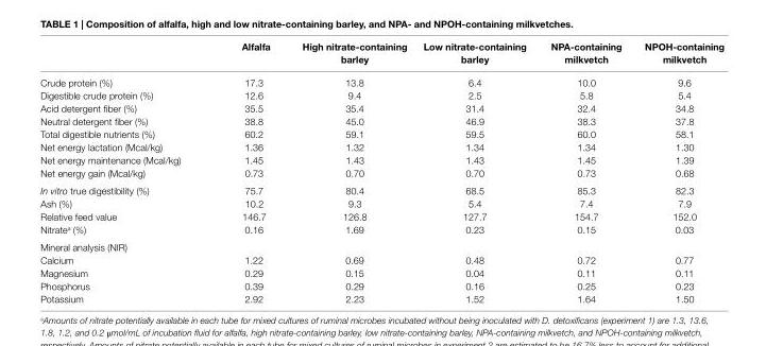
<table><thead><tr><td></td><td>alfalfa</td><td>high nitrate-containing barley</td><td>low nitrate-containing barley</td><td>nPa-containing milkvetch</td><td>nPOh-containing milkvetch</td></tr></thead><tbody><tr><td>Crude protein (%)</td><td>17.3</td><td>13.8</td><td>6.4</td><td>10.0</td><td>9.6</td></tr><tr><td>Digestible crude protein (%)</td><td>12.6</td><td>9.4</td><td>2.5</td><td>5.8</td><td>5.4</td></tr><tr><td>Acid detergent fiber (%)</td><td>35.5</td><td>35.4</td><td>31.4</td><td>32.4</td><td>34.8</td></tr><tr><td>Neutral detergent fiber (%)</td><td>38.8</td><td>45.0</td><td>46.9</td><td>38.3</td><td>37.8</td></tr><tr><td>Total digestible nutrients (%)</td><td>60.2</td><td>59.1</td><td>59.5</td><td>60.0</td><td>58.1</td></tr><tr><td>Net energy lactation (Mcal/kg)</td><td>1.36</td><td>1.32</td><td>1.34</td><td>1.34</td><td>1.30</td></tr><tr><td>Net energy maintenance (Mcal/kg)</td><td>1.45</td><td>1.43</td><td>1.43</td><td>1.45</td><td>1.39</td></tr><tr><td>Net energy gain (Mcal/kg)</td><td>0.73</td><td>0.70</td><td>0.70</td><td>0.73</td><td>0.68</td></tr><tr><td>In vitro true digestibility (%)</td><td>75.7</td><td>80.4</td><td>68.5</td><td>85.3</td><td>82.3</td></tr><tr><td>Ash (%)</td><td>10.2</td><td>9.3</td><td>5.4</td><td>7.4</td><td>7.9</td></tr><tr><td>Relative feed value</td><td>146.7</td><td>126.8</td><td>127.7</td><td>154.7</td><td>152.0</td></tr><tr><td>Nitrate<sup>a</sup> (%)</td><td>0.16</td><td>1.69</td><td>0.23</td><td>0.15</td><td>0.03</td></tr><tr><td colspan="6">Mineral analysis (NIR)</td></tr><tr><td>Calcium</td><td>1.22</td><td>0.69</td><td>0.48</td><td>0.72</td><td>0.77</td></tr><tr><td>Magnesium</td><td>0.29</td><td>0.15</td><td>0.04</td><td>0.11</td><td>0.11</td></tr><tr><td>Phosphorus</td><td>0.39</td><td>0.29</td><td>0.16</td><td>0.25</td><td>0.23</td></tr><tr><td>Potassium</td><td>2.92</td><td>2.23</td><td>1.52</td><td>1.64</td><td>1.50</td></tr></tbody></table>